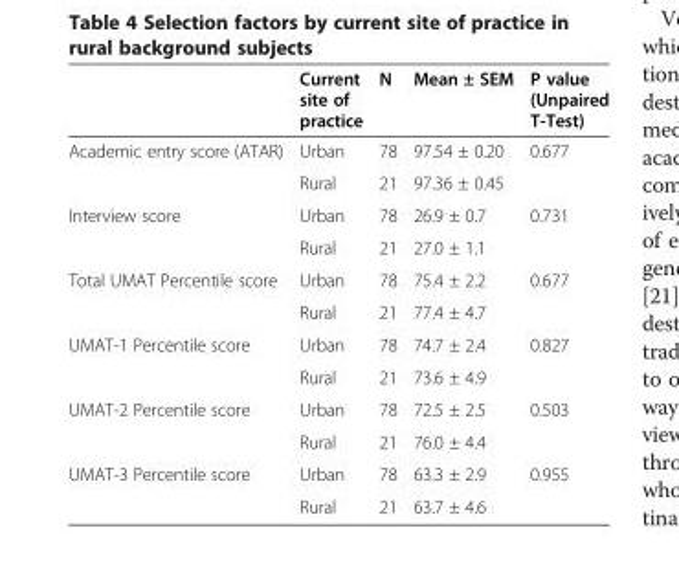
<table><thead><tr><td></td><td>Current site of practice</td><td>N</td><td>Mean ± SEM</td><td>P value (Unpaired T-Test)</td></tr></thead><tbody><tr><td rowspan="2">Academic entry score (ATAR)</td><td>Urban</td><td>78</td><td>97.54 ± 0.20</td><td>0.677</td></tr><tr><td>Rural</td><td>21</td><td>97.36 ± 0.45</td><td></td></tr><tr><td rowspan="2">Interview score</td><td>Urban</td><td>78</td><td>26.9 ± 0.7</td><td>0.731</td></tr><tr><td>Rural</td><td>21</td><td>27.0 ± 1.1</td><td></td></tr><tr><td rowspan="2">Total UMAT Percentile score</td><td>Urban</td><td>78</td><td>75.4 ± 2.2</td><td>0.677</td></tr><tr><td>Rural</td><td>21</td><td>77.4 ± 4.7</td><td></td></tr><tr><td rowspan="2">UMAT-1 Percentile score</td><td>Urban</td><td>78</td><td>74.7 ± 2.4</td><td>0.827</td></tr><tr><td>Rural</td><td>21</td><td>73.6 ± 4.9</td><td></td></tr><tr><td rowspan="2">UMAT-2 Percentile score</td><td>Urban</td><td>78</td><td>72.5 ± 2.5</td><td>0.503</td></tr><tr><td>Rural</td><td>21</td><td>76.0 ± 4.4</td><td></td></tr><tr><td rowspan="2">UMAT-3 Percentile score</td><td>Urban</td><td>78</td><td>63.3 ± 2.9</td><td>0.955</td></tr><tr><td>Rural</td><td>21</td><td>63.7 ± 4.6</td><td></td></tr></tbody></table>